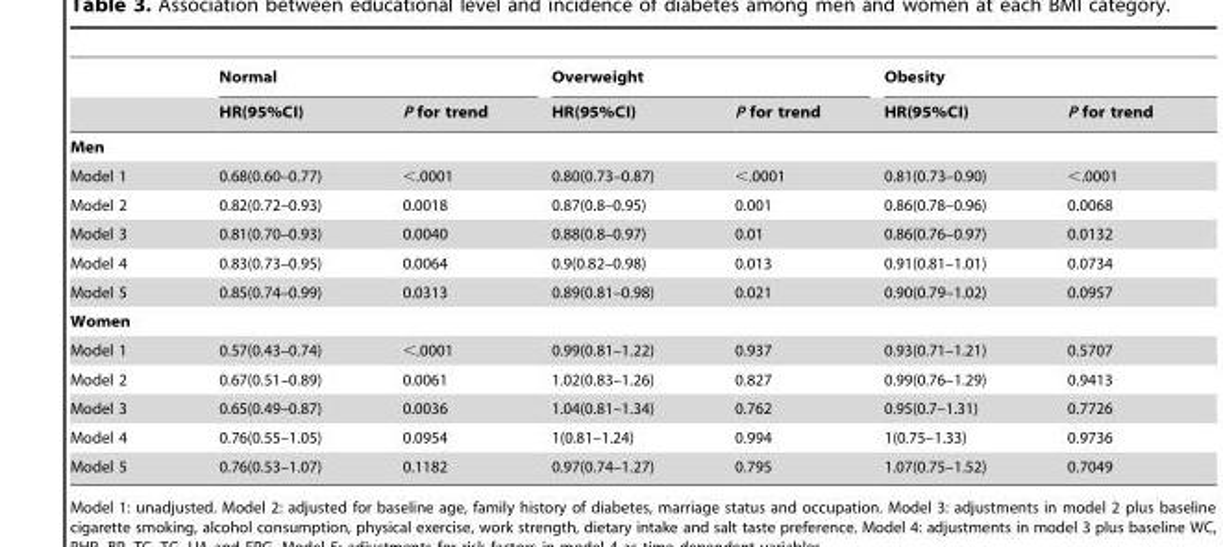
<table><thead><tr><td rowspan="2"></td><td colspan="2">Normal</td><td colspan="2">Overweight</td><td colspan="2">Obesity</td></tr><tr><td>HR(95%CI)</td><td>P for trend</td><td>HR(95%CI)</td><td>P for trend</td><td>HR(95%CI)</td><td>P for trend</td></tr></thead><tbody><tr><td colspan="7">Men</td></tr><tr><td>Model 1</td><td>0.68(0.60–0.77)</td><td>&lt;.0001</td><td>0.80(0.73–0.87)</td><td>&lt;.0001</td><td>0.81(0.73–0.90)</td><td>&lt;.0001</td></tr><tr><td>Model 2</td><td>0.82(0.72–0.93)</td><td>0.0018</td><td>0.87(0.8–0.95)</td><td>0.001</td><td>0.86(0.78–0.96)</td><td>0.0068</td></tr><tr><td>Model 3</td><td>0.81(0.70–0.93)</td><td>0.0040</td><td>0.88(0.8–0.97)</td><td>0.01</td><td>0.86(0.76–0.97)</td><td>0.0132</td></tr><tr><td>Model 4</td><td>0.83(0.73–0.95)</td><td>0.0064</td><td>0.9(0.82–0.98)</td><td>0.013</td><td>0.91(0.81–1.01)</td><td>0.0734</td></tr><tr><td>Model 5</td><td>0.85(0.74–0.99)</td><td>0.0313</td><td>0.89(0.81–0.98)</td><td>0.021</td><td>0.90(0.79–1.02)</td><td>0.0957</td></tr><tr><td colspan="7">Women</td></tr><tr><td>Model 1</td><td>0.57(0.43–0.74)</td><td>&lt;.0001</td><td>0.99(0.81–1.22)</td><td>0.937</td><td>0.93(0.71–1.21)</td><td>0.5707</td></tr><tr><td>Model 2</td><td>0.67(0.51–0.89)</td><td>0.0061</td><td>1.02(0.83–1.26)</td><td>0.827</td><td>0.99(0.76–1.29)</td><td>0.9413</td></tr><tr><td>Model 3</td><td>0.65(0.49–0.87)</td><td>0.0036</td><td>1.04(0.81–1.34)</td><td>0.762</td><td>0.95(0.7–1.31)</td><td>0.7726</td></tr><tr><td>Model 4</td><td>0.76(0.55–1.05)</td><td>0.0954</td><td>1(0.81–1.24)</td><td>0.994</td><td>1(0.75–1.33)</td><td>0.9736</td></tr><tr><td>Model 5</td><td>0.76(0.53–1.07)</td><td>0.1182</td><td>0.97(0.74–1.27)</td><td>0.795</td><td>1.07(0.75–1.52)</td><td>0.7049</td></tr></tbody></table>